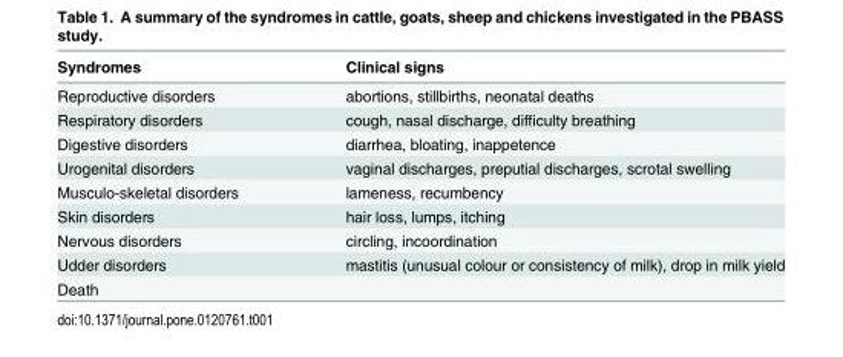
<table><thead><tr><td>Syndromes</td><td>Clinical signs</td></tr></thead><tbody><tr><td>Reproductive disorders</td><td>abortions, stillbirths, neonatal deaths</td></tr><tr><td>Respiratory disorders</td><td>cough, nasal discharge, difficulty breathing</td></tr><tr><td>Digestive disorders</td><td>diarrhea, bloating, inappetence</td></tr><tr><td>Urogenital disorders</td><td>vaginal discharges, preputial discharges, scrotal swelling</td></tr><tr><td>Musculo-skeletal disorders</td><td>lameness, recumbency</td></tr><tr><td>Skin disorders</td><td>hair loss, lumps, itching</td></tr><tr><td>Nervous disorders</td><td>circling, incoordination</td></tr><tr><td>Udder disorders</td><td>mastitis (unusual colour or consistency of milk), drop in milk yield</td></tr><tr><td>Death</td><td></td></tr></tbody></table>